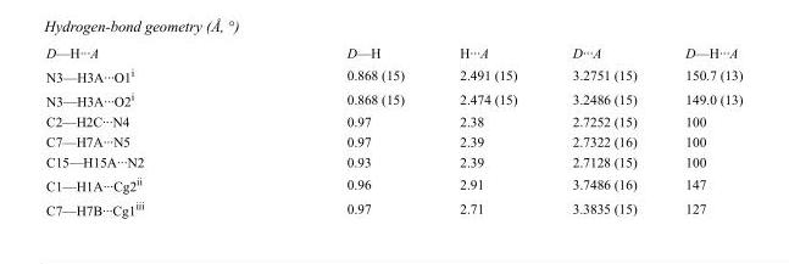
<table><tbody><tr><td>D—H···A</td><td>D—H</td><td>H···A</td><td>D···A</td><td>D—H···A</td></tr><tr><td>N3—H3A···O1<sup>i</sup></td><td>0.868 (15)</td><td>2.491 (15)</td><td>3.2751 (15)</td><td>150.7 (13)</td></tr><tr><td>N3—H3A···O2<sup>i</sup></td><td>0.868 (15)</td><td>2.474 (15)</td><td>3.2486 (15)</td><td>149.0 (13)</td></tr><tr><td>C2—H2C···N4</td><td>0.97</td><td>2.38</td><td>2.7252 (15)</td><td>100</td></tr><tr><td>C7—H7A···N5</td><td>0.97</td><td>2.39</td><td>2.7322 (16)</td><td>100</td></tr><tr><td>C15—H15A···N2</td><td>0.93</td><td>2.39</td><td>2.7128 (15)</td><td>100</td></tr><tr><td>C1—H1A···Cg2<sup>ii</sup></td><td>0.96</td><td>2.91</td><td>3.7486 (16)</td><td>147</td></tr><tr><td>C7—H7B···Cg1<sup>iii</sup></td><td>0.97</td><td>2.71</td><td>3.3835 (15)</td><td>127</td></tr></tbody></table>